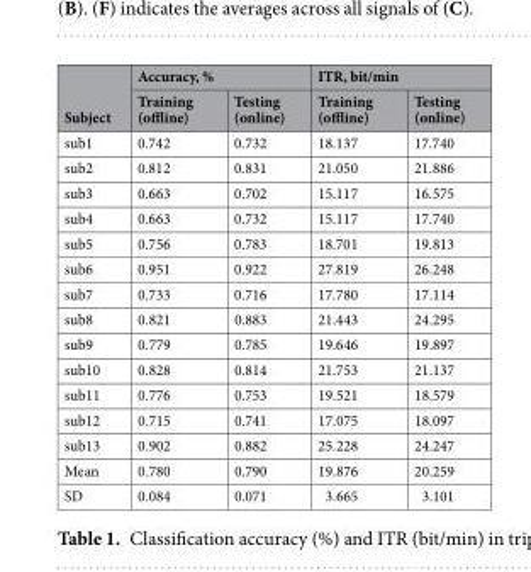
<table><thead><tr><td rowspan="2">Subject</td><td colspan="2">Accuracy, %</td><td colspan="2">ITR, bit/min</td></tr><tr><td>Training (offline)</td><td>Testing (online)</td><td>Training (offline)</td><td>Testing (online)</td></tr></thead><tbody><tr><td>sub1</td><td>0.742</td><td>0.732</td><td>18.137</td><td>17.740</td></tr><tr><td>sub2</td><td>0.812</td><td>0.831</td><td>21.050</td><td>21.886</td></tr><tr><td>sub3</td><td>0.663</td><td>0.702</td><td>15.117</td><td>16.575</td></tr><tr><td>sub4</td><td>0.663</td><td>0.732</td><td>15.117</td><td>17.740</td></tr><tr><td>sub5</td><td>0.756</td><td>0.783</td><td>18.701</td><td>19.813</td></tr><tr><td>sub6</td><td>0.951</td><td>0.922</td><td>27.819</td><td>26.248</td></tr><tr><td>sub7</td><td>0.733</td><td>0.716</td><td>17.780</td><td>17.114</td></tr><tr><td>sub8</td><td>0.821</td><td>0.883</td><td>21.443</td><td>24.295</td></tr><tr><td>sub9</td><td>0.779</td><td>0.785</td><td>19.646</td><td>19.897</td></tr><tr><td>sub10</td><td>0.828</td><td>0.814</td><td>21.753</td><td>21.137</td></tr><tr><td>sub11</td><td>0.776</td><td>0.753</td><td>19.521</td><td>18.579</td></tr><tr><td>sub12</td><td>0.715</td><td>0.741</td><td>17.075</td><td>18.097</td></tr><tr><td>sub13</td><td>0.902</td><td>0.882</td><td>25.228</td><td>24.247</td></tr><tr><td>Mean</td><td>0.780</td><td>0.790</td><td>19.876</td><td>20.259</td></tr><tr><td>SD</td><td>0.084</td><td>0.071</td><td>3.665</td><td>3.101</td></tr></tbody></table>